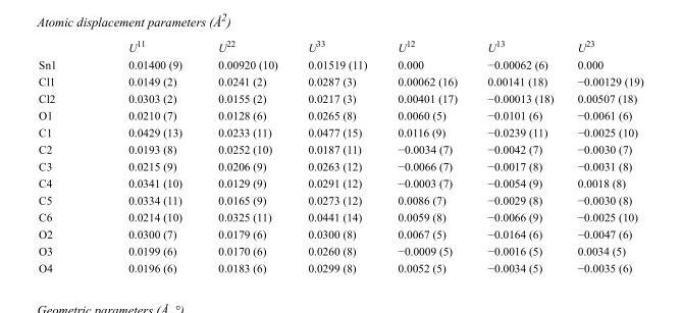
<table><thead><tr><td></td><td>U<sup>11</sup></td><td>U<sup>22</sup></td><td>U<sup>33</sup></td><td>U<sup>12</sup></td><td>U<sup>13</sup></td><td>U<sup>23</sup></td></tr></thead><tbody><tr><td>Sn1</td><td>0.01400 (9)</td><td>0.00920 (10)</td><td>0.01519 (11)</td><td>0.000</td><td>−0.00062 (6)</td><td>0.000</td></tr><tr><td>Cl1</td><td>0.0149 (2)</td><td>0.0241 (2)</td><td>0.0287 (3)</td><td>0.00062 (16)</td><td>0.00141 (18)</td><td>−0.00129 (19)</td></tr><tr><td>Cl2</td><td>0.0303 (2)</td><td>0.0155 (2)</td><td>0.0217 (3)</td><td>0.00401 (17)</td><td>−0.00013 (18)</td><td>0.00507 (18)</td></tr><tr><td>O1</td><td>0.0210 (7)</td><td>0.0128 (6)</td><td>0.0265 (8)</td><td>0.0060 (5)</td><td>−0.0101 (6)</td><td>−0.0061 (6)</td></tr><tr><td>C1</td><td>0.0429 (13)</td><td>0.0233 (11)</td><td>0.0477 (15)</td><td>0.0116 (9)</td><td>−0.0239 (11)</td><td>−0.0025 (10)</td></tr><tr><td>C2</td><td>0.0193 (8)</td><td>0.0252 (10)</td><td>0.0187 (11)</td><td>−0.0034 (7)</td><td>−0.0042 (7)</td><td>−0.0030 (7)</td></tr><tr><td>C3</td><td>0.0215 (9)</td><td>0.0206 (9)</td><td>0.0263 (12)</td><td>−0.0066 (7)</td><td>−0.0017 (8)</td><td>−0.0031 (8)</td></tr><tr><td>C4</td><td>0.0341 (10)</td><td>0.0129 (9)</td><td>0.0291 (12)</td><td>−0.0003 (7)</td><td>−0.0054 (9)</td><td>0.0018 (8)</td></tr><tr><td>C5</td><td>0.0334 (11)</td><td>0.0165 (9)</td><td>0.0273 (12)</td><td>0.0086 (7)</td><td>−0.0029 (8)</td><td>−0.0030 (8)</td></tr><tr><td>C6</td><td>0.0214 (10)</td><td>0.0325 (11)</td><td>0.0441 (14)</td><td>0.0059 (8)</td><td>−0.0066 (9)</td><td>−0.0025 (10)</td></tr><tr><td>O2</td><td>0.0300 (7)</td><td>0.0179 (6)</td><td>0.0300 (8)</td><td>0.0067 (5)</td><td>−0.0164 (6)</td><td>−0.0047 (6)</td></tr><tr><td>O3</td><td>0.0199 (6)</td><td>0.0170 (6)</td><td>0.0260 (8)</td><td>−0.0009 (5)</td><td>−0.0016 (5)</td><td>0.0034 (5)</td></tr><tr><td>O4</td><td>0.0196 (6)</td><td>0.0183 (6)</td><td>0.0299 (8)</td><td>0.0052 (5)</td><td>−0.0034 (5)</td><td>−0.0035 (6)</td></tr></tbody></table>